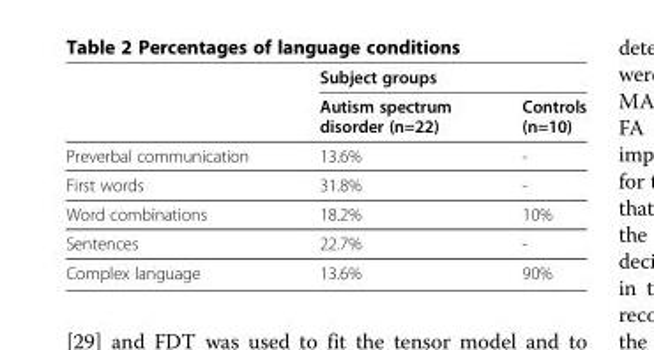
<table><thead><tr><td rowspan="2"></td><td colspan="2">Subject groups</td></tr><tr><td>Autism spectrum disorder (n=22)</td><td>Controls (n=10)</td></tr></thead><tbody><tr><td>Preverbal communication</td><td>13.6%</td><td>-</td></tr><tr><td>First words</td><td>31.8%</td><td>-</td></tr><tr><td>Word combinations</td><td>18.2%</td><td>10%</td></tr><tr><td>Sentences</td><td>22.7%</td><td>-</td></tr><tr><td>Complex language</td><td>13.6%</td><td>90%</td></tr></tbody></table>